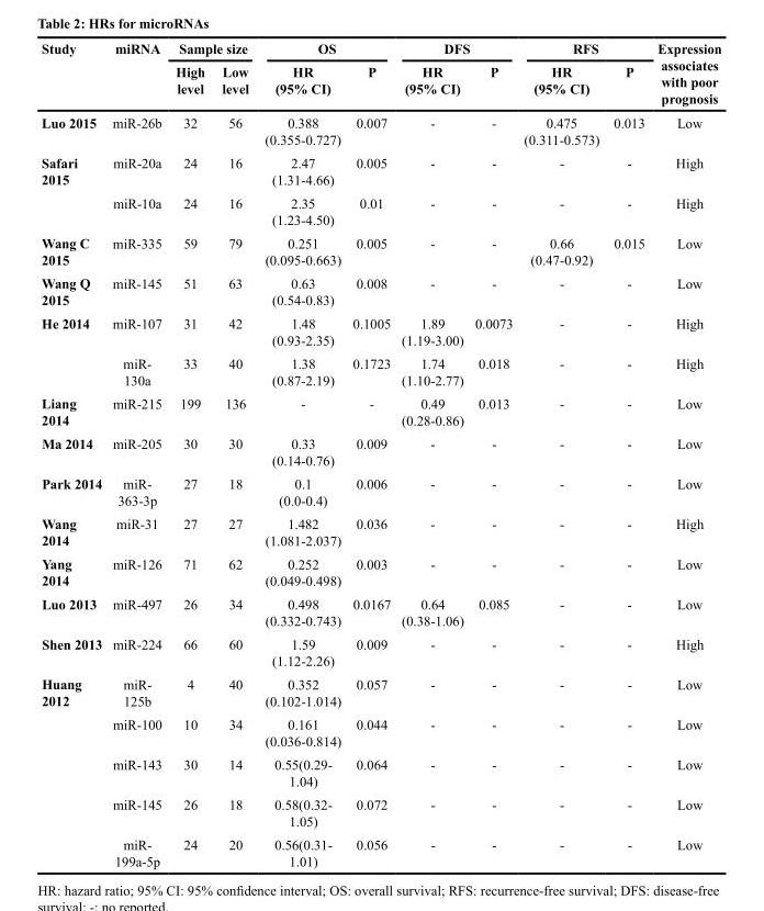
<table><thead><tr><td rowspan="2">Study</td><td rowspan="2">miRNA</td><td colspan="2">Sample size</td><td colspan="2">OS</td><td colspan="2">DFS</td><td colspan="2">RFS</td><td rowspan="2">Expression associates with poor prognosis</td></tr><tr><td>High level</td><td>Low level</td><td>HR (95% CI)</td><td>P</td><td>HR (95% CI)</td><td>P</td><td>HR (95% CI)</td><td>P</td></tr></thead><tbody><tr><td>Luo 2015</td><td>miR-26b</td><td>32</td><td>56</td><td>0.388 (0.355-0.727)</td><td>0.007</td><td>-</td><td>-</td><td>0.475 (0.311-0.573)</td><td>0.013</td><td>Low</td></tr><tr><td rowspan="2">Safari 2015</td><td>miR-20a</td><td>24</td><td>16</td><td>2.47 (1.31-4.66)</td><td>0.005</td><td>-</td><td>-</td><td>-</td><td>-</td><td>High</td></tr><tr><td>miR-10a</td><td>24</td><td>16</td><td>2.35 (1.23-4.50)</td><td>0.01</td><td>-</td><td>-</td><td>-</td><td>-</td><td>High</td></tr><tr><td>Wang C 2015</td><td>miR-335</td><td>59</td><td>79</td><td>0.251 (0.095-0.663)</td><td>0.005</td><td>-</td><td>-</td><td>0.66 (0.47-0.92)</td><td>0.015</td><td>Low</td></tr><tr><td>Wang Q 2015</td><td>miR-145</td><td>51</td><td>63</td><td>0.63 (0.54-0.83)</td><td>0.008</td><td>-</td><td>-</td><td>-</td><td>-</td><td>Low</td></tr><tr><td rowspan="2">He 2014</td><td>miR-107</td><td>31</td><td>42</td><td>1.48 (0.93-2.35)</td><td>0.1005</td><td>1.89 (1.19-3.00)</td><td>0.0073</td><td>-</td><td>-</td><td>High</td></tr><tr><td>miR- 130a</td><td>33</td><td>40</td><td>1.38 (0.87-2.19)</td><td>0.1723</td><td>1.74 (1.10-2.77)</td><td>0.018</td><td>-</td><td>-</td><td>High</td></tr><tr><td>Liang 2014</td><td>miR-215</td><td>199</td><td>136</td><td>-</td><td>-</td><td>0.49 (0.28-0.86)</td><td>0.013</td><td>-</td><td>-</td><td>Low</td></tr><tr><td>Ma 2014</td><td>miR-205</td><td>30</td><td>30</td><td>0.33 (0.14-0.76)</td><td>0.009</td><td>-</td><td>-</td><td>-</td><td>-</td><td>Low</td></tr><tr><td>Park 2014</td><td>miR- 363-3p</td><td>27</td><td>18</td><td>0.1 (0.0-0.4)</td><td>0.006</td><td>-</td><td>-</td><td>-</td><td>-</td><td>Low</td></tr><tr><td>Wang 2014</td><td>miR-31</td><td>27</td><td>27</td><td>1.482 (1.081-2.037)</td><td>0.036</td><td>-</td><td>-</td><td>-</td><td>-</td><td>High</td></tr><tr><td>Yang 2014</td><td>miR-126</td><td>71</td><td>62</td><td>0.252 (0.049-0.498)</td><td>0.003</td><td>-</td><td>-</td><td>-</td><td>-</td><td>Low</td></tr><tr><td>Luo 2013</td><td>miR-497</td><td>26</td><td>34</td><td>0.498 (0.332-0.743)</td><td>0.0167</td><td>0.64 (0.38-1.06)</td><td>0.085</td><td>-</td><td>-</td><td>Low</td></tr><tr><td>Shen 2013</td><td>miR-224</td><td>66</td><td>60</td><td>1.59 (1.12-2.26)</td><td>0.009</td><td>-</td><td>-</td><td>-</td><td>-</td><td>High</td></tr><tr><td rowspan="5">Huang 2012</td><td>miR- 125b</td><td>4</td><td>40</td><td>0.352 (0.102-1.014)</td><td>0.057</td><td>-</td><td>-</td><td>-</td><td>-</td><td>Low</td></tr><tr><td>miR-100</td><td>10</td><td>34</td><td>0.161 (0.036-0.814)</td><td>0.044</td><td>-</td><td>-</td><td>-</td><td>-</td><td>Low</td></tr><tr><td>miR-143</td><td>30</td><td>14</td><td>0.55(0.29- 1.04)</td><td>0.064</td><td>-</td><td>-</td><td>-</td><td>-</td><td>Low</td></tr><tr><td>miR-145</td><td>26</td><td>18</td><td>0.58(0.32- 1.05)</td><td>0.072</td><td>-</td><td>-</td><td>-</td><td>-</td><td>Low</td></tr><tr><td>miR- 199a-5p</td><td>24</td><td>20</td><td>0.56(0.31- 1.01)</td><td>0.056</td><td>-</td><td>-</td><td>-</td><td>-</td><td>Low</td></tr></tbody></table>